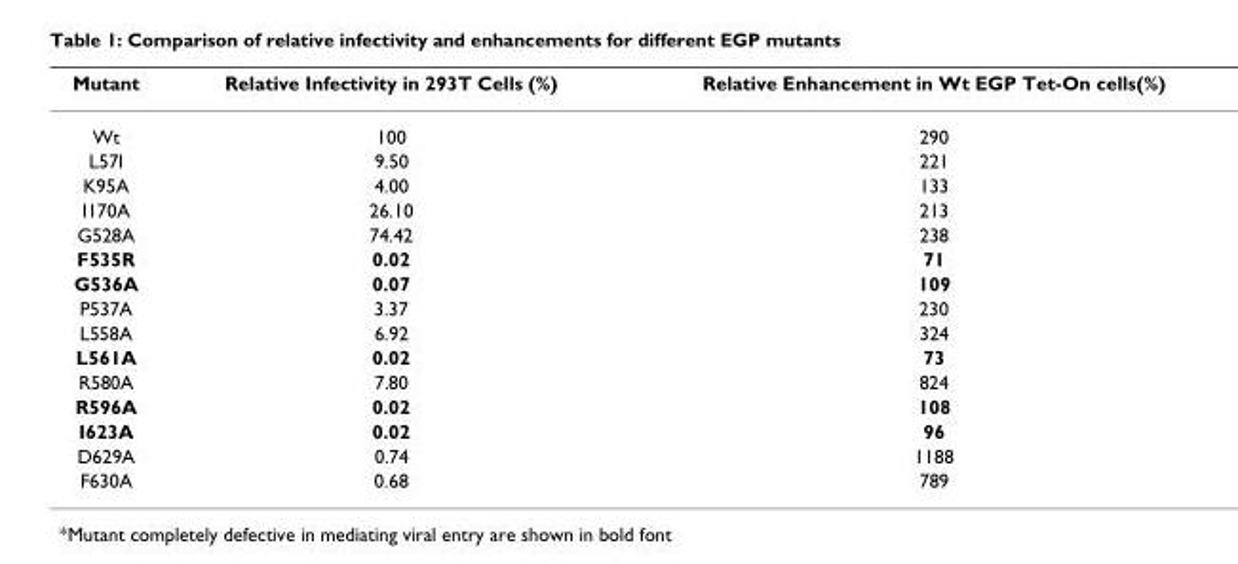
<table><thead><tr><td>Mutant</td><td>Relative Infectivity in 293T Cells (%)</td><td>Relative Enhancement in Wt EGP Tet-On cells(%)</td></tr></thead><tbody><tr><td>Wt</td><td>100</td><td>290</td></tr><tr><td>L57I</td><td>9.50</td><td>221</td></tr><tr><td>K95A</td><td>4.00</td><td>133</td></tr><tr><td>I170A</td><td>26.10</td><td>213</td></tr><tr><td>G528A</td><td>74.42</td><td>238</td></tr><tr><td>F535R</td><td>0.02</td><td>71</td></tr><tr><td>G536A</td><td>0.07</td><td>109</td></tr><tr><td>P537A</td><td>3.37</td><td>230</td></tr><tr><td>L558A</td><td>6.92</td><td>324</td></tr><tr><td>L561A</td><td>0.02</td><td>73</td></tr><tr><td>R580A</td><td>7.80</td><td>824</td></tr><tr><td>R596A</td><td>0.02</td><td>108</td></tr><tr><td>I623A</td><td>0.02</td><td>96</td></tr><tr><td>D629A</td><td>0.74</td><td>1188</td></tr><tr><td>F630A</td><td>0.68</td><td>789</td></tr></tbody></table>